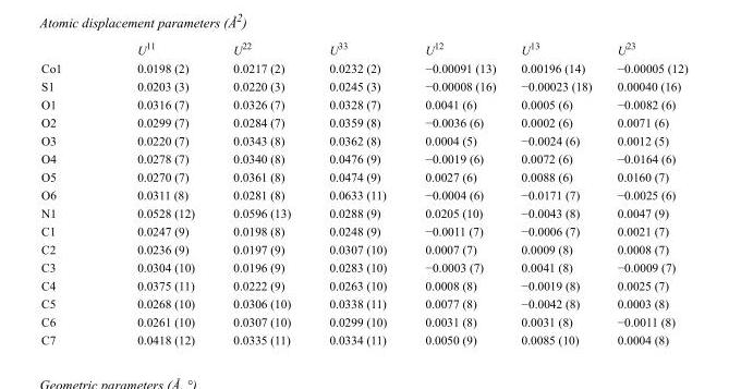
<table><thead><tr><td></td><td>U<sup>11</sup></td><td>U<sup>22</sup></td><td>U<sup>33</sup></td><td>U<sup>12</sup></td><td>U<sup>13</sup></td><td>U<sup>23</sup></td></tr></thead><tbody><tr><td>Co1</td><td>0.0198 (2)</td><td>0.0217 (2)</td><td>0.0232 (2)</td><td>−0.00091 (13)</td><td>0.00196 (14)</td><td>−0.00005 (12)</td></tr><tr><td>S1</td><td>0.0203 (3)</td><td>0.0220 (3)</td><td>0.0245 (3)</td><td>−0.00008 (16)</td><td>−0.00023 (18)</td><td>0.00040 (16)</td></tr><tr><td>O1</td><td>0.0316 (7)</td><td>0.0326 (7)</td><td>0.0328 (7)</td><td>0.0041 (6)</td><td>0.0005 (6)</td><td>−0.0082 (6)</td></tr><tr><td>O2</td><td>0.0299 (7)</td><td>0.0284 (7)</td><td>0.0359 (8)</td><td>−0.0036 (6)</td><td>0.0002 (6)</td><td>0.0071 (6)</td></tr><tr><td>O3</td><td>0.0220 (7)</td><td>0.0343 (8)</td><td>0.0362 (8)</td><td>0.0004 (5)</td><td>−0.0024 (6)</td><td>0.0012 (5)</td></tr><tr><td>O4</td><td>0.0278 (7)</td><td>0.0340 (8)</td><td>0.0476 (9)</td><td>−0.0019 (6)</td><td>0.0072 (6)</td><td>−0.0164 (6)</td></tr><tr><td>O5</td><td>0.0270 (7)</td><td>0.0361 (8)</td><td>0.0474 (9)</td><td>0.0027 (6)</td><td>0.0088 (6)</td><td>0.0160 (7)</td></tr><tr><td>O6</td><td>0.0311 (8)</td><td>0.0281 (8)</td><td>0.0633 (11)</td><td>−0.0004 (6)</td><td>−0.0171 (7)</td><td>−0.0025 (6)</td></tr><tr><td>N1</td><td>0.0528 (12)</td><td>0.0596 (13)</td><td>0.0288 (9)</td><td>0.0205 (10)</td><td>−0.0043 (8)</td><td>0.0047 (9)</td></tr><tr><td>C1</td><td>0.0247 (9)</td><td>0.0198 (8)</td><td>0.0248 (9)</td><td>−0.0011 (7)</td><td>−0.0006 (7)</td><td>0.0021 (7)</td></tr><tr><td>C2</td><td>0.0236 (9)</td><td>0.0197 (9)</td><td>0.0307 (10)</td><td>0.0007 (7)</td><td>0.0009 (8)</td><td>0.0008 (7)</td></tr><tr><td>C3</td><td>0.0304 (10)</td><td>0.0196 (9)</td><td>0.0283 (10)</td><td>−0.0003 (7)</td><td>0.0041 (8)</td><td>−0.0009 (7)</td></tr><tr><td>C4</td><td>0.0375 (11)</td><td>0.0222 (9)</td><td>0.0263 (10)</td><td>0.0008 (8)</td><td>−0.0019 (8)</td><td>0.0025 (7)</td></tr><tr><td>C5</td><td>0.0268 (10)</td><td>0.0306 (10)</td><td>0.0338 (11)</td><td>0.0077 (8)</td><td>−0.0042 (8)</td><td>0.0003 (8)</td></tr><tr><td>C6</td><td>0.0261 (10)</td><td>0.0307 (10)</td><td>0.0299 (10)</td><td>0.0031 (8)</td><td>0.0031 (8)</td><td>−0.0011 (8)</td></tr><tr><td>C7</td><td>0.0418 (12)</td><td>0.0335 (11)</td><td>0.0334 (11)</td><td>0.0050 (9)</td><td>0.0085 (10)</td><td>0.0004 (8)</td></tr></tbody></table>